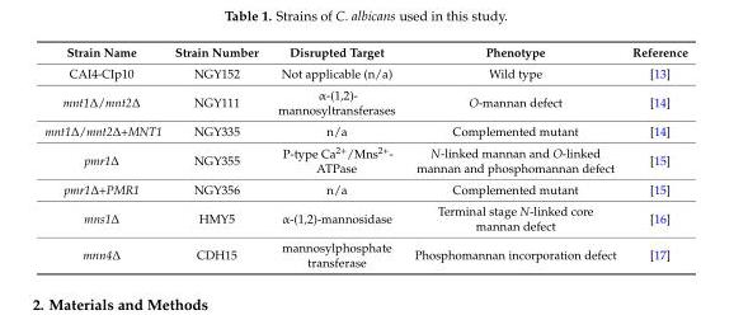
<table><thead><tr><td>Strain Name</td><td>Strain Number</td><td>Disrupted Target</td><td>Phenotype</td><td>Reference</td></tr></thead><tbody><tr><td>CAI4-CIp10</td><td>NGY152</td><td>Not applicable (n/a)</td><td>Wild type</td><td>[13]</td></tr><tr><td>mnt1∆/mnt2∆</td><td>NGY111</td><td>α-(1,2)- mannosyltransferases</td><td>O-mannan defect</td><td>[14]</td></tr><tr><td>mnt1∆/mnt2∆+MNT1</td><td>NGY335</td><td>n/a</td><td>Complemented mutant</td><td>[14]</td></tr><tr><td>pmr1∆</td><td>NGY355</td><td>P-type Ca<sup>2+</sup>/Mns<sup>2+</sup>- ATPase</td><td>N-linked mannan and O-linked mannan and phosphomannan defect</td><td>[15]</td></tr><tr><td>pmr1∆+PMR1</td><td>NGY356</td><td>n/a</td><td>Complemented mutant</td><td>[15]</td></tr><tr><td>mns1∆</td><td>HMY5</td><td>α-(1,2)-mannosidase</td><td>Terminal stage N-linked core mannan defect</td><td>[16]</td></tr><tr><td>mnn4∆</td><td>CDH15</td><td>mannosylphosphate transferase</td><td>Phosphomannan incorporation defect</td><td>[17]</td></tr></tbody></table>